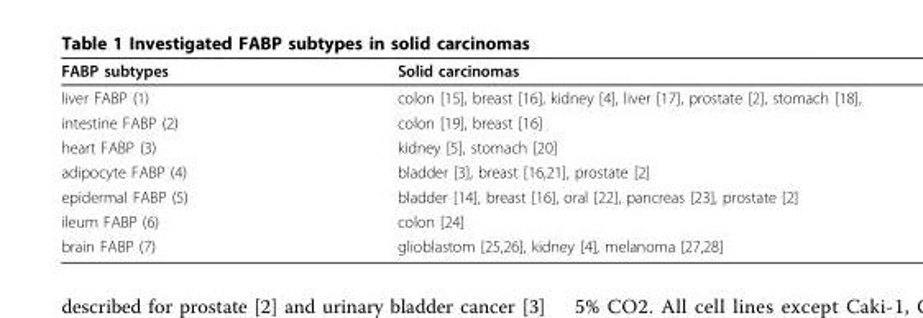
<table><thead><tr><td>FABP subtypes</td><td>Solid carcinomas</td></tr></thead><tbody><tr><td>liver FABP (1)</td><td>colon [15], breast [16], kidney [4], liver [17], prostate [2], stomach [18],</td></tr><tr><td>intestine FABP (2)</td><td>colon [19], breast [16]</td></tr><tr><td>heart FABP (3)</td><td>kidney [5], stomach [20]</td></tr><tr><td>adipocyte FABP (4)</td><td>bladder [3], breast [16,21], prostate [2]</td></tr><tr><td>epidermal FABP (5)</td><td>bladder [14], breast [16], oral [22], pancreas [23], prostate [2]</td></tr><tr><td>ileum FABP (6)</td><td>colon [24]</td></tr><tr><td>brain FABP (7)</td><td>glioblastom [25,26], kidney [4], melanoma [27,28]</td></tr></tbody></table>